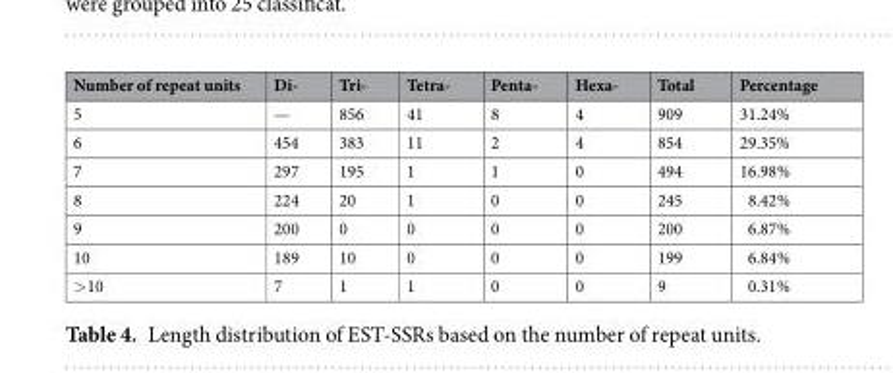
<table><thead><tr><td>Number of repeat units</td><td>Di-</td><td>Tri-</td><td>Tetra-</td><td>Penta-</td><td>Hexa-</td><td>Total</td><td>Percentage</td></tr></thead><tbody><tr><td>5</td><td>—</td><td>856</td><td>41</td><td>8</td><td>4</td><td>909</td><td>31.24%</td></tr><tr><td>6</td><td>454</td><td>383</td><td>11</td><td>2</td><td>4</td><td>854</td><td>29.35%</td></tr><tr><td>7</td><td>297</td><td>195</td><td>1</td><td>1</td><td>0</td><td>494</td><td>16.98%</td></tr><tr><td>8</td><td>224</td><td>20</td><td>1</td><td>0</td><td>0</td><td>245</td><td>8.42%</td></tr><tr><td>9</td><td>200</td><td>0</td><td>0</td><td>0</td><td>0</td><td>200</td><td>6.87%</td></tr><tr><td>10</td><td>189</td><td>10</td><td>0</td><td>0</td><td>0</td><td>199</td><td>6.84%</td></tr><tr><td>&gt;10</td><td>7</td><td>1</td><td>1</td><td>0</td><td>0</td><td>9</td><td>0.31%</td></tr></tbody></table>